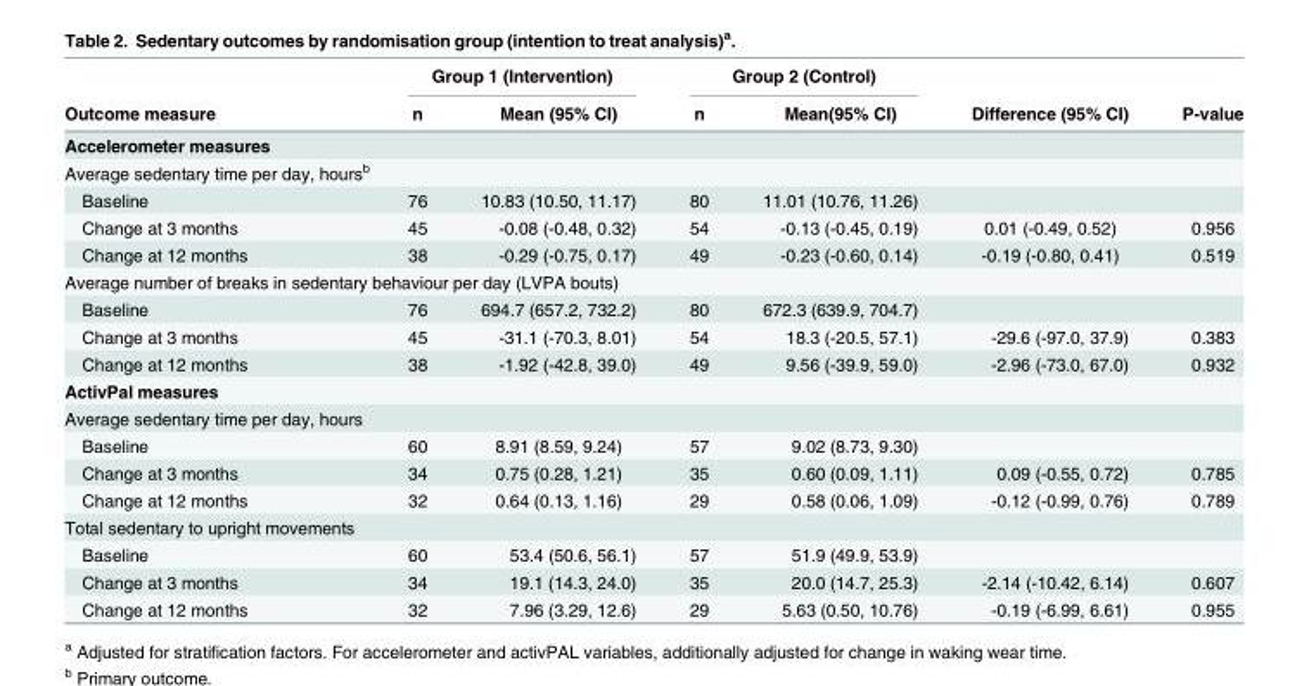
<table><thead><tr><td rowspan="2">Outcome measure</td><td colspan="2">Group 1 (Intervention)</td><td colspan="2">Group 2 (Control)</td><td rowspan="2">Difference (95% CI)</td><td rowspan="2">P-value</td></tr><tr><td>n</td><td>Mean (95% CI)</td><td>n</td><td>Mean(95% CI)</td></tr></thead><tbody><tr><td colspan="7">Accelerometer measures</td></tr><tr><td colspan="7">Average sedentary time per day, hours<sup>b</sup></td></tr><tr><td>Baseline</td><td>76</td><td>10.83 (10.50, 11.17)</td><td>80</td><td>11.01 (10.76, 11.26)</td><td></td><td></td></tr><tr><td>Change at 3 months</td><td>45</td><td>-0.08 (-0.48, 0.32)</td><td>54</td><td>-0.13 (-0.45, 0.19)</td><td>0.01 (-0.49, 0.52)</td><td>0.956</td></tr><tr><td>Change at 12 months</td><td>38</td><td>-0.29 (-0.75, 0.17)</td><td>49</td><td>-0.23 (-0.60, 0.14)</td><td>-0.19 (-0.80, 0.41)</td><td>0.519</td></tr><tr><td colspan="7">Average number of breaks in sedentary behaviour per day (LVPA bouts)</td></tr><tr><td>Baseline</td><td>76</td><td>694.7 (657.2, 732.2)</td><td>80</td><td>672.3 (639.9, 704.7)</td><td></td><td></td></tr><tr><td>Change at 3 months</td><td>45</td><td>-31.1 (-70.3, 8.01)</td><td>54</td><td>18.3 (-20.5, 57.1)</td><td>-29.6 (-97.0, 37.9)</td><td>0.383</td></tr><tr><td>Change at 12 months</td><td>38</td><td>-1.92 (-42.8, 39.0)</td><td>49</td><td>9.56 (-39.9, 59.0)</td><td>-2.96 (-73.0, 67.0)</td><td>0.932</td></tr><tr><td colspan="7">ActivPal measures</td></tr><tr><td colspan="7">Average sedentary time per day, hours</td></tr><tr><td>Baseline</td><td>60</td><td>8.91 (8.59, 9.24)</td><td>57</td><td>9.02 (8.73, 9.30)</td><td></td><td></td></tr><tr><td>Change at 3 months</td><td>34</td><td>0.75 (0.28, 1.21)</td><td>35</td><td>0.60 (0.09, 1.11)</td><td>0.09 (-0.55, 0.72)</td><td>0.785</td></tr><tr><td>Change at 12 months</td><td>32</td><td>0.64 (0.13, 1.16)</td><td>29</td><td>0.58 (0.06, 1.09)</td><td>-0.12 (-0.99, 0.76)</td><td>0.789</td></tr><tr><td colspan="7">Total sedentary to upright movements</td></tr><tr><td>Baseline</td><td>60</td><td>53.4 (50.6, 56.1)</td><td>57</td><td>51.9 (49.9, 53.9)</td><td></td><td></td></tr><tr><td>Change at 3 months</td><td>34</td><td>19.1 (14.3, 24.0)</td><td>35</td><td>20.0 (14.7, 25.3)</td><td>-2.14 (-10.42, 6.14)</td><td>0.607</td></tr><tr><td>Change at 12 months</td><td>32</td><td>7.96 (3.29, 12.6)</td><td>29</td><td>5.63 (0.50, 10.76)</td><td>-0.19 (-6.99, 6.61)</td><td>0.955</td></tr></tbody></table>